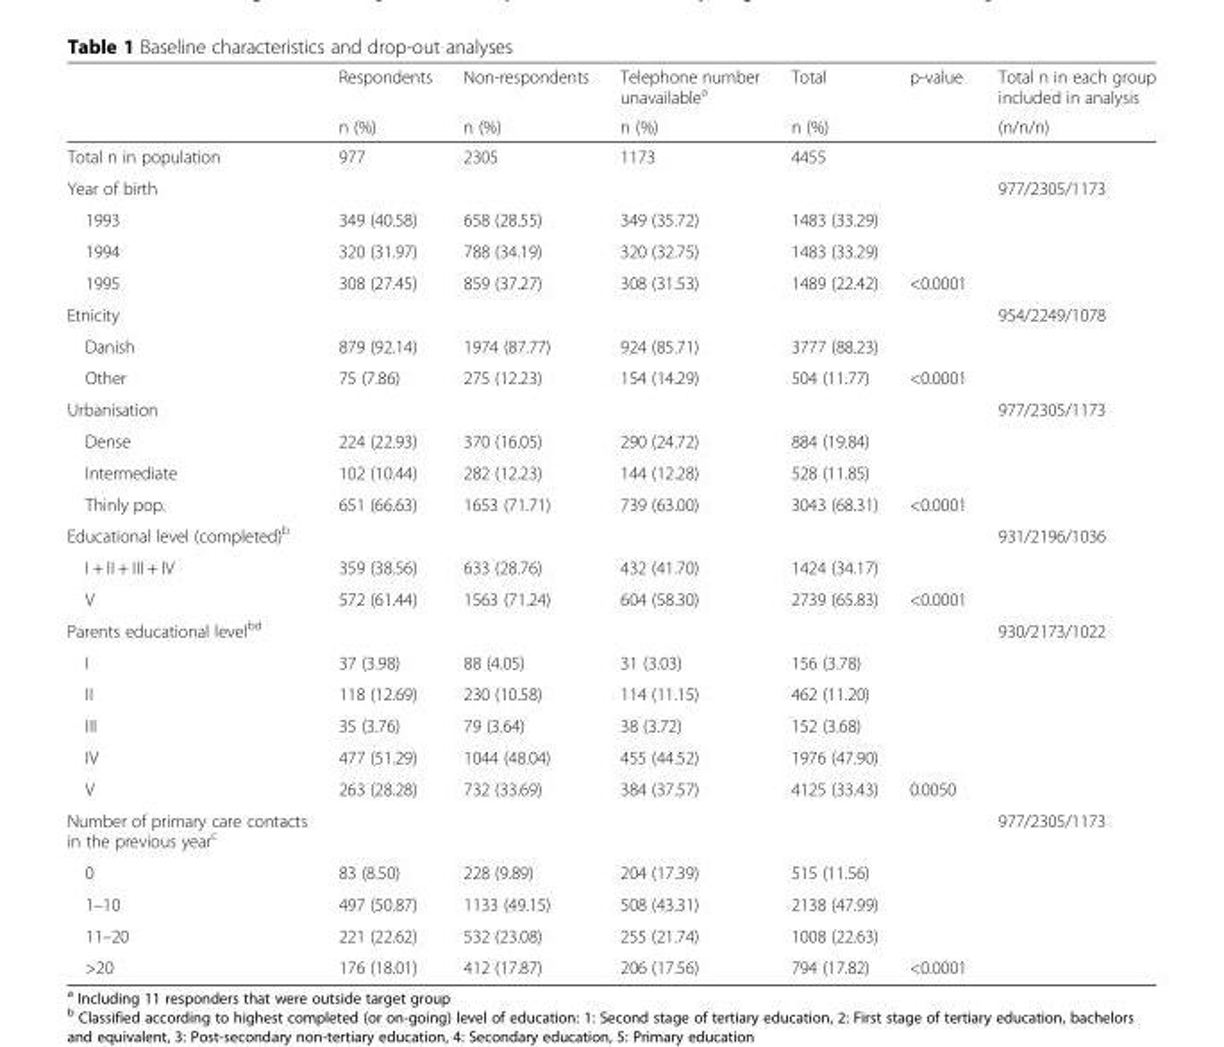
<table><thead><tr><td rowspan="2"></td><td rowspan="2">Respondents n (%)</td><td rowspan="2">Non-respondents n (%)</td><td rowspan="2">Telephone number unavailable<sup>a</sup> n (%)</td><td rowspan="2">Total n (%)</td><td rowspan="2">p-value</td><td rowspan="2">Total n in each group included in analysis (n/n/n)</td></tr><tr></tr></thead><tbody><tr><td>Total n in population</td><td>977</td><td>2305</td><td>1173</td><td>4455</td><td></td><td></td></tr><tr><td colspan="6">Year of birth</td><td rowspan="4">977/2305/1173</td></tr><tr><td>1993</td><td>349 (40.58)</td><td>658 (28.55)</td><td>349 (35.72)</td><td>1483 (33.29)</td><td></td></tr><tr><td>1994</td><td>320 (31.97)</td><td>788 (34.19)</td><td>320 (32.75)</td><td>1483 (33.29)</td><td></td></tr><tr><td>1995</td><td>308 (27.45)</td><td>859 (37.27)</td><td>308 (31.53)</td><td>1489 (22.42)</td><td>&lt;0.0001</td></tr><tr><td colspan="6">Etnicity</td><td rowspan="3">954/2249/1078</td></tr><tr><td>Danish</td><td>879 (92.14)</td><td>1974 (87.77)</td><td>924 (85.71)</td><td>3777 (88.23)</td><td></td></tr><tr><td>Other</td><td>75 (7.86)</td><td>275 (12.23)</td><td>154 (14.29)</td><td>504 (11.77)</td><td>&lt;0.0001</td></tr><tr><td colspan="6">Urbanisation</td><td rowspan="4">977/2305/1173</td></tr><tr><td>Dense</td><td>224 (22.93)</td><td>370 (16.05)</td><td>290 (24.72)</td><td>884 (19.84)</td><td></td></tr><tr><td>Intermediate</td><td>102 (10.44)</td><td>282 (12.23)</td><td>144 (12.28)</td><td>528 (11.85)</td><td></td></tr><tr><td>Thinly pop.</td><td>651 (66.63)</td><td>1653 (71.71)</td><td>739 (63.00)</td><td>3043 (68.31)</td><td>&lt;0.0001</td></tr><tr><td colspan="6">Educational level (completed)<sup>b</sup></td><td rowspan="3">931/2196/1036</td></tr><tr><td>I + II + III + IV</td><td>359 (38.56)</td><td>633 (28.76)</td><td>432 (41.70)</td><td>1424 (34.17)</td><td></td></tr><tr><td>V</td><td>572 (61.44)</td><td>1563 (71.24)</td><td>604 (58.30)</td><td>2739 (65.83)</td><td>&lt;0.0001</td></tr><tr><td colspan="6">Parents educational level<sup>bd</sup></td><td rowspan="6">930/2173/1022</td></tr><tr><td>I</td><td>37 (3.98)</td><td>88 (4.05)</td><td>31 (3.03)</td><td>156 (3.78)</td><td></td></tr><tr><td>II</td><td>118 (12.69)</td><td>230 (10.58)</td><td>114 (11.15)</td><td>462 (11.20)</td><td></td></tr><tr><td>III</td><td>35 (3.76)</td><td>79 (3.64)</td><td>38 (3.72)</td><td>152 (3.68)</td><td></td></tr><tr><td>IV</td><td>477 (51.29)</td><td>1044 (48.04)</td><td>455 (44.52)</td><td>1976 (47.90)</td><td></td></tr><tr><td>V</td><td>263 (28.28)</td><td>732 (33.69)</td><td>384 (37.57)</td><td>4125 (33.43)</td><td>0.0050</td></tr><tr><td colspan="6">Number of primary care contacts in the previous year<sup>c</sup></td><td rowspan="5">977/2305/1173</td></tr><tr><td>0</td><td>83 (8.50)</td><td>228 (9.89)</td><td>204 (17.39)</td><td>515 (11.56)</td><td></td></tr><tr><td>1–10</td><td>497 (50.87)</td><td>1133 (49.15)</td><td>508 (43.31)</td><td>2138 (47.99)</td><td></td></tr><tr><td>11–20</td><td>221 (22.62)</td><td>532 (23.08)</td><td>255 (21.74)</td><td>1008 (22.63)</td><td></td></tr><tr><td>&gt;20</td><td>176 (18.01)</td><td>412 (17.87)</td><td>206 (17.56)</td><td>794 (17.82)</td><td>&lt;0.0001</td></tr></tbody></table>